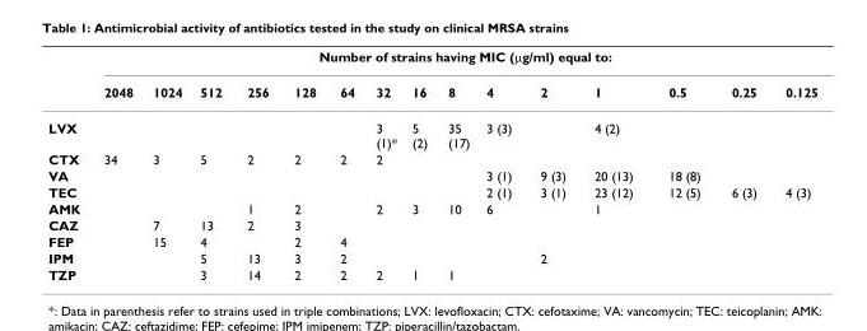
<table><thead><tr><td rowspan="2"></td><td colspan="15">Number of strains having MIC (µg/ml) equal to:</td></tr><tr><td>2048</td><td>1024</td><td>512</td><td>256</td><td>128</td><td>64</td><td>32</td><td>16</td><td>8</td><td>4</td><td>2</td><td>1</td><td>0.5</td><td>0.25</td><td>0.125</td></tr></thead><tbody><tr><td>LVX</td><td></td><td></td><td></td><td></td><td></td><td></td><td>3 (1)*</td><td>5 (2)</td><td>35 (17)</td><td>3 (3)</td><td></td><td>4 (2)</td><td></td><td></td><td></td></tr><tr><td>CTX</td><td>34</td><td>3</td><td>5</td><td>2</td><td>2</td><td>2</td><td>2</td><td></td><td></td><td></td><td></td><td></td><td></td><td></td><td></td></tr><tr><td>VA</td><td></td><td></td><td></td><td></td><td></td><td></td><td></td><td></td><td></td><td>3 (1)</td><td>9 (3)</td><td>20 (13)</td><td>18 (8)</td><td></td><td></td></tr><tr><td>TEC</td><td></td><td></td><td></td><td></td><td></td><td></td><td></td><td></td><td></td><td>2 (1)</td><td>3 (1)</td><td>23 (12)</td><td>12 (5)</td><td>6 (3)</td><td>4 (3)</td></tr><tr><td>AMK</td><td></td><td></td><td></td><td>1</td><td>2</td><td></td><td>2</td><td>3</td><td>10</td><td>6</td><td></td><td>1</td><td></td><td></td><td></td></tr><tr><td>CAZ</td><td></td><td>7</td><td>13</td><td>2</td><td>3</td><td></td><td></td><td></td><td></td><td></td><td></td><td></td><td></td><td></td><td></td></tr><tr><td>FEP</td><td></td><td>15</td><td>4</td><td></td><td>2</td><td>4</td><td></td><td></td><td></td><td></td><td></td><td></td><td></td><td></td><td></td></tr><tr><td>IPM</td><td></td><td></td><td>5</td><td>13</td><td>3</td><td>2</td><td></td><td></td><td></td><td></td><td>2</td><td></td><td></td><td></td><td></td></tr><tr><td>TZP</td><td></td><td></td><td>3</td><td>14</td><td>2</td><td>2</td><td>2</td><td>1</td><td>1</td><td></td><td></td><td></td><td></td><td></td><td></td></tr></tbody></table>